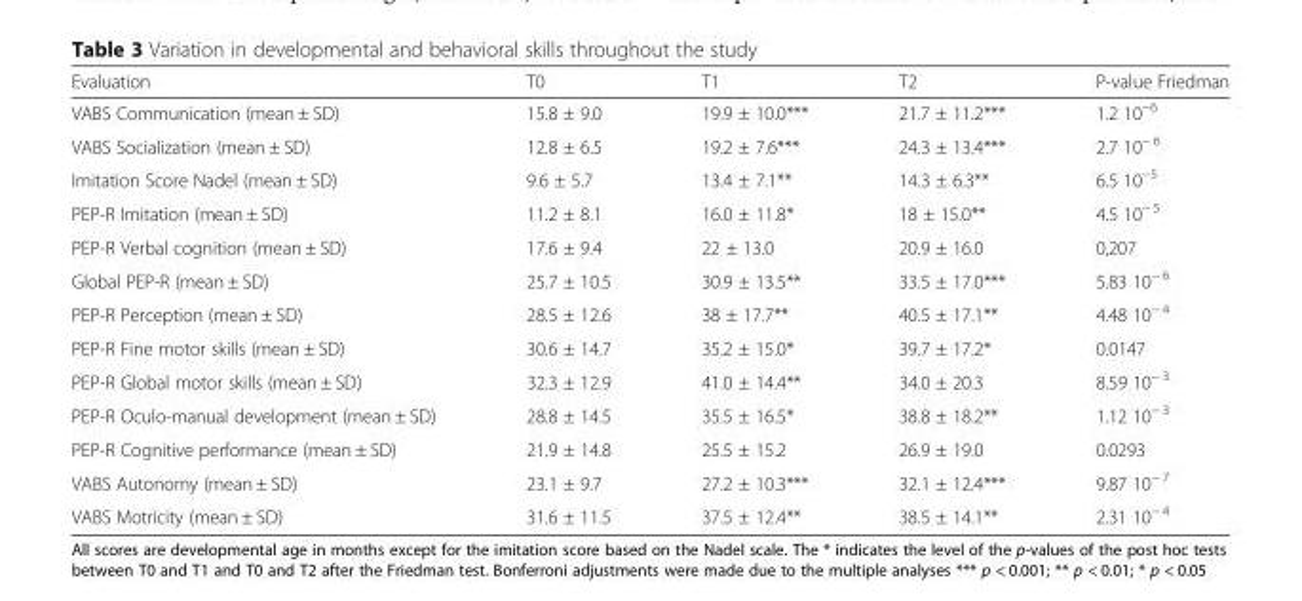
<table><thead><tr><td>Evaluation</td><td>T0</td><td>T1</td><td>T2</td><td>P-value Friedman</td></tr></thead><tbody><tr><td>VABS Communication (mean ± SD)</td><td>15.8 ± 9.0</td><td>19.9 ± 10.0***</td><td>21.7 ± 11.2***</td><td>1.2 10<sup>−6</sup></td></tr><tr><td>VABS Socialization (mean ± SD)</td><td>12.8 ± 6.5</td><td>19.2 ± 7.6***</td><td>24.3 ± 13.4***</td><td>2.7 10<sup>− 6</sup></td></tr><tr><td>Imitation Score Nadel (mean ± SD)</td><td>9.6 ± 5.7</td><td>13.4 ± 7.1**</td><td>14.3 ± 6.3**</td><td>6.5 10<sup>−5</sup></td></tr><tr><td>PEP-R Imitation (mean ± SD)</td><td>11.2 ± 8.1</td><td>16.0 ± 11.8*</td><td>18 ± 15.0**</td><td>4.5 10<sup>− 5</sup></td></tr><tr><td>PEP-R Verbal cognition (mean ± SD)</td><td>17.6 ± 9.4</td><td>22 ± 13.0</td><td>20.9 ± 16.0</td><td>0,207</td></tr><tr><td>Global PEP-R (mean ± SD)</td><td>25.7 ± 10.5</td><td>30.9 ± 13.5**</td><td>33.5 ± 17.0***</td><td>5.83 10<sup>− 6</sup></td></tr><tr><td>PEP-R Perception (mean ± SD)</td><td>28.5 ± 12.6</td><td>38 ± 17.7**</td><td>40.5 ± 17.1**</td><td>4.48 10<sup>− 4</sup></td></tr><tr><td>PEP-R Fine motor skills (mean ± SD)</td><td>30.6 ± 14.7</td><td>35.2 ± 15.0*</td><td>39.7 ± 17.2*</td><td>0.0147</td></tr><tr><td>PEP-R Global motor skills (mean ± SD)</td><td>32.3 ± 12.9</td><td>41.0 ± 14.4**</td><td>34.0 ± 20.3</td><td>8.59 10<sup>− 3</sup></td></tr><tr><td>PEP-R Oculo-manual development (mean ± SD)</td><td>28.8 ± 14.5</td><td>35.5 ± 16.5*</td><td>38.8 ± 18.2**</td><td>1.12 10<sup>− 3</sup></td></tr><tr><td>PEP-R Cognitive performance (mean ± SD)</td><td>21.9 ± 14.8</td><td>25.5 ± 15.2</td><td>26.9 ± 19.0</td><td>0.0293</td></tr><tr><td>VABS Autonomy (mean ± SD)</td><td>23.1 ± 9.7</td><td>27.2 ± 10.3***</td><td>32.1 ± 12.4***</td><td>9.87 10<sup>− 7</sup></td></tr><tr><td>VABS Motricity (mean ± SD)</td><td>31.6 ± 11.5</td><td>37.5 ± 12.4**</td><td>38.5 ± 14.1**</td><td>2.31 10<sup>− 4</sup></td></tr></tbody></table>